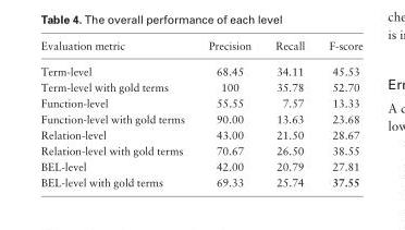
<table><thead><tr><td>Evaluation metric</td><td>Precision</td><td>Recall</td><td>F-score</td></tr></thead><tbody><tr><td>Term-level</td><td>68.45</td><td>34.11</td><td>45.53</td></tr><tr><td>Term-level with gold terms</td><td>100</td><td>35.78</td><td>52.70</td></tr><tr><td>Function-level</td><td>55.55</td><td>7.57</td><td>13.33</td></tr><tr><td>Function-level with gold terms</td><td>90.00</td><td>13.63</td><td>23.68</td></tr><tr><td>Relation-level</td><td>43.00</td><td>21.50</td><td>28.67</td></tr><tr><td>Relation-level with gold terms</td><td>70.67</td><td>26.50</td><td>38.55</td></tr><tr><td>BEL-level</td><td>42.00</td><td>20.79</td><td>27.81</td></tr><tr><td>BEL-level with gold terms</td><td>69.33</td><td>25.74</td><td>37.55</td></tr></tbody></table>